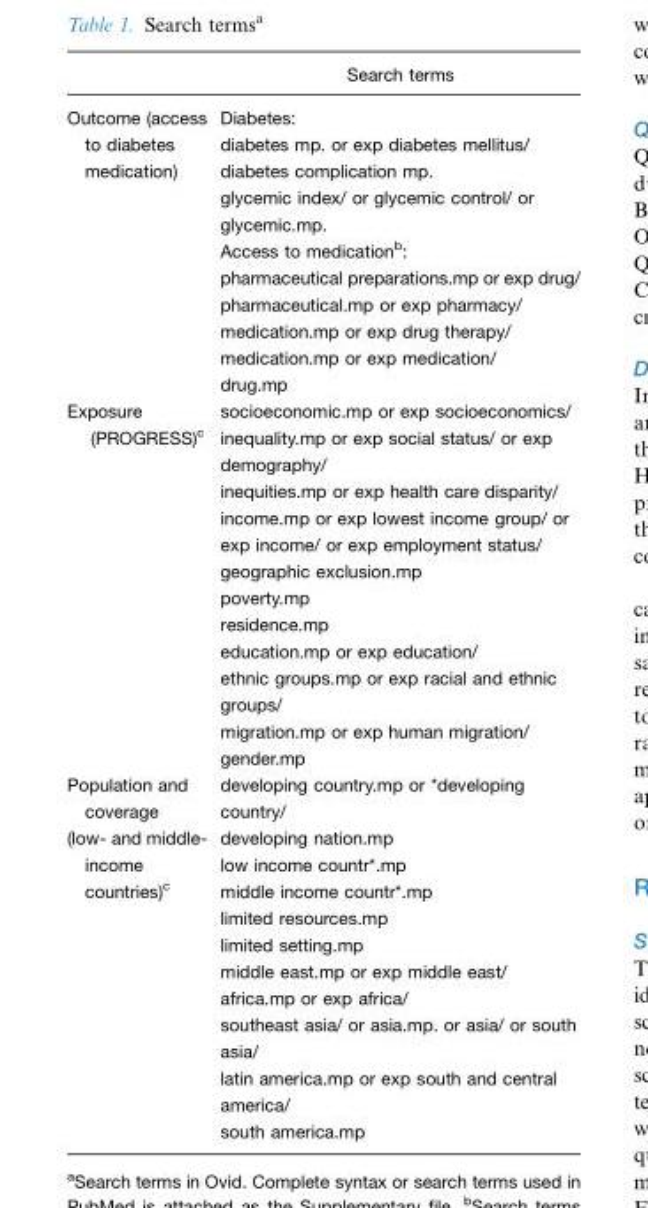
<table><thead><tr><td></td><td>Search terms</td></tr></thead><tbody><tr><td>Outcome (access</td><td>Diabetes:</td></tr><tr><td>to diabetes</td><td>diabetes mp. or exp diabetes mellitus/</td></tr><tr><td rowspan="8">medication)</td><td>diabetes complication mp.</td></tr><tr><td>glycemic index/ or glycemic control/ or glycemic.mp.</td></tr><tr><td>Access to medication<sup>b</sup>:</td></tr><tr><td>pharmaceutical preparations.mp or exp drug/</td></tr><tr><td>pharmaceutical.mp or exp pharmacy/</td></tr><tr><td>medication.mp or exp drug therapy/</td></tr><tr><td>medication.mp or exp medication/</td></tr><tr><td>drug.mp</td></tr><tr><td>Exposure</td><td>socioeconomic.mp or exp socioeconomics/</td></tr><tr><td rowspan="10">(PROGRESS)<sup>c</sup></td><td>inequality.mp or exp social status/ or exp demography/</td></tr><tr><td>inequities.mp or exp health care disparity/</td></tr><tr><td>income.mp or exp lowest income group/ or exp income/ or exp employment status/</td></tr><tr><td>geographic exclusion.mp</td></tr><tr><td>poverty.mp</td></tr><tr><td>residence.mp</td></tr><tr><td>education.mp or exp education/</td></tr><tr><td>ethnic groups.mp or exp racial and ethnic groups/</td></tr><tr><td>migration.mp or exp human migration/</td></tr><tr><td>gender.mp</td></tr><tr><td>Population and coverage</td><td>developing country.mp or *developing country/</td></tr><tr><td>(low- and middle-</td><td>developing nation.mp</td></tr><tr><td>income</td><td>low income countr*.mp</td></tr><tr><td rowspan="8">countries)<sup>c</sup></td><td>middle income countr*.mp</td></tr><tr><td>limited resources.mp</td></tr><tr><td>limited setting.mp</td></tr><tr><td>middle east.mp or exp middle east/</td></tr><tr><td>africa.mp or exp africa/</td></tr><tr><td>southeast asia/ or asia.mp. or asia/ or south asia/</td></tr><tr><td>latin america.mp or exp south and central america/</td></tr><tr><td>south america.mp</td></tr></tbody></table>